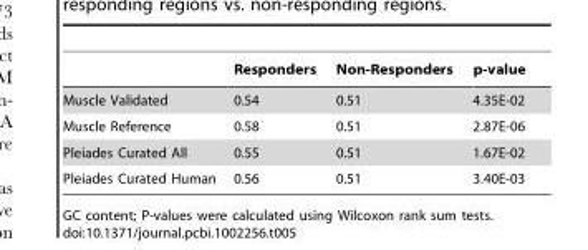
<table><thead><tr><td></td><td>Responders</td><td>Non-Responders</td><td>p-value</td></tr></thead><tbody><tr><td>Muscle Validated</td><td>0.54</td><td>0.51</td><td>4.35E-02</td></tr><tr><td>Muscle Reference</td><td>0.58</td><td>0.51</td><td>2.87E-06</td></tr><tr><td>Pleiades Curated All</td><td>0.55</td><td>0.51</td><td>1.67E-02</td></tr><tr><td>Pleiades Curated Human</td><td>0.56</td><td>0.51</td><td>3.40E-03</td></tr></tbody></table>